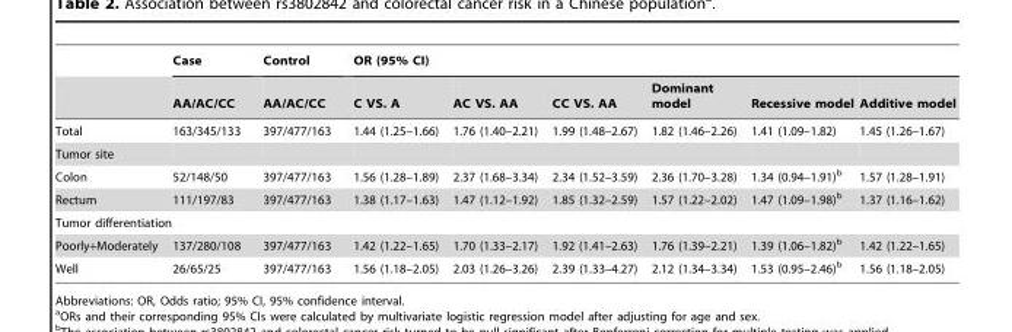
<table><thead><tr><td rowspan="2"></td><td rowspan="2">Case AA/AC/CC</td><td rowspan="2">Control AA/AC/CC</td><td colspan="6">OR (95% CI)</td></tr><tr><td>C VS. A</td><td>AC VS. AA</td><td>CC VS. AA</td><td>Dominant model</td><td>Recessive model</td><td>Additive model</td></tr></thead><tbody><tr><td>Total</td><td>163/345/133</td><td>397/477/163</td><td>1.44 (1.25–1.66)</td><td>1.76 (1.40–2.21)</td><td>1.99 (1.48–2.67)</td><td>1.82 (1.46–2.26)</td><td>1.41 (1.09–1.82)</td><td>1.45 (1.26–1.67)</td></tr><tr><td colspan="9">Tumor site</td></tr><tr><td>Colon</td><td>52/148/50</td><td>397/477/163</td><td>1.56 (1.28–1.89)</td><td>2.37 (1.68–3.34)</td><td>2.34 (1.52–3.59)</td><td>2.36 (1.70–3.28)</td><td>1.34 (0.94–1.91)<sup>b</sup></td><td>1.57 (1.28–1.91)</td></tr><tr><td>Rectum</td><td>111/197/83</td><td>397/477/163</td><td>1.38 (1.17–1.63)</td><td>1.47 (1.12–1.92)</td><td>1.85 (1.32–2.59)</td><td>1.57 (1.22–2.02)</td><td>1.47 (1.09–1.98)<sup>b</sup></td><td>1.37 (1.16–1.62)</td></tr><tr><td colspan="9">Tumor differentiation</td></tr><tr><td>Poorly+Moderately</td><td>137/280/108</td><td>397/477/163</td><td>1.42 (1.22–1.65)</td><td>1.70 (1.33–2.17)</td><td>1.92 (1.41–2.63)</td><td>1.76 (1.39–2.21)</td><td>1.39 (1.06–1.82)<sup>b</sup></td><td>1.42 (1.22–1.65)</td></tr><tr><td>Well</td><td>26/65/25</td><td>397/477/163</td><td>1.56 (1.18–2.05)</td><td>2.03 (1.26–3.26)</td><td>2.39 (1.33–4.27)</td><td>2.12 (1.34–3.34)</td><td>1.53 (0.95–2.46)<sup>b</sup></td><td>1.56 (1.18–2.05)</td></tr></tbody></table>